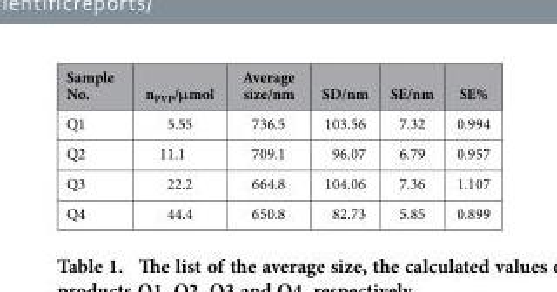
<table><thead><tr><td>Sample No.</td><td>n<sub>PVP</sub>/μmol</td><td>Average size/nm</td><td>SD/nm</td><td>SE/nm</td><td>SE%</td></tr></thead><tbody><tr><td>Q1</td><td>5.55</td><td>736.5</td><td>103.56</td><td>7.32</td><td>0.994</td></tr><tr><td>Q2</td><td>11.1</td><td>709.1</td><td>96.07</td><td>6.79</td><td>0.957</td></tr><tr><td>Q3</td><td>22.2</td><td>664.8</td><td>104.06</td><td>7.36</td><td>1.107</td></tr><tr><td>Q4</td><td>44.4</td><td>650.8</td><td>82.73</td><td>5.85</td><td>0.899</td></tr></tbody></table>